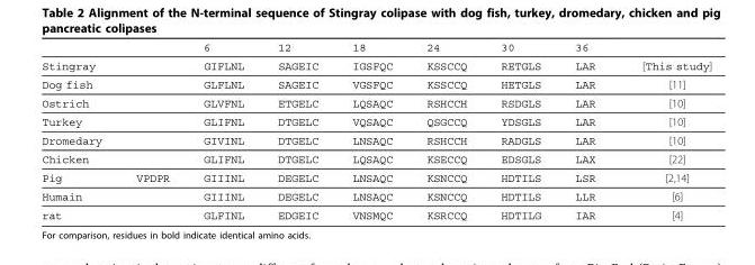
<table><thead><tr><td></td><td></td><td>6</td><td>12</td><td>18</td><td>24</td><td>30</td><td>36</td><td></td></tr></thead><tbody><tr><td>Stingray</td><td></td><td>GIFLNL</td><td>SAGEIC</td><td>IGSFQC</td><td>KSSCCQ</td><td>RETGLS</td><td>LAR</td><td>[This study]</td></tr><tr><td>Dog fish</td><td></td><td>GLFLNL</td><td>SAGEIC</td><td>VGSFQC</td><td>KSSCCQ</td><td>HETGLS</td><td>LAR</td><td>[11]</td></tr><tr><td>Ostrich</td><td></td><td>GLVFNL</td><td>ETGELC</td><td>LQSAQC</td><td>RSHCCH</td><td>RSDGLS</td><td>LAR</td><td>[10]</td></tr><tr><td>Turkey</td><td></td><td>GLIFNL</td><td>DTGELC</td><td>VQSAQC</td><td>QSGCCQ</td><td>YDSGLS</td><td>LAR</td><td>[10]</td></tr><tr><td>Dromedary</td><td></td><td>GIVINL</td><td>DTGELC</td><td>LNSAQC</td><td>RSHCCH</td><td>RADGLS</td><td>LAR</td><td>[10]</td></tr><tr><td>Chicken</td><td></td><td>GLIFNL</td><td>DTGELC</td><td>LQSAQC</td><td>KSECCQ</td><td>EDSGLS</td><td>LAX</td><td>[22]</td></tr><tr><td>Pig</td><td>VPDPR</td><td>GIIINL</td><td>DEGELC</td><td>LNSAQC</td><td>KSNCCQ</td><td>HDTILS</td><td>LSR</td><td>[2,14]</td></tr><tr><td>Humain</td><td></td><td>GIIINL</td><td>DEGELC</td><td>LNSAQC</td><td>KSNCCQ</td><td>HDTILS</td><td>LLR</td><td>[6]</td></tr><tr><td>rat</td><td></td><td>GLFINL</td><td>EDGEIC</td><td>VNSMQC</td><td>KSRCCQ</td><td>HDTILG</td><td>IAR</td><td>[4]</td></tr></tbody></table>